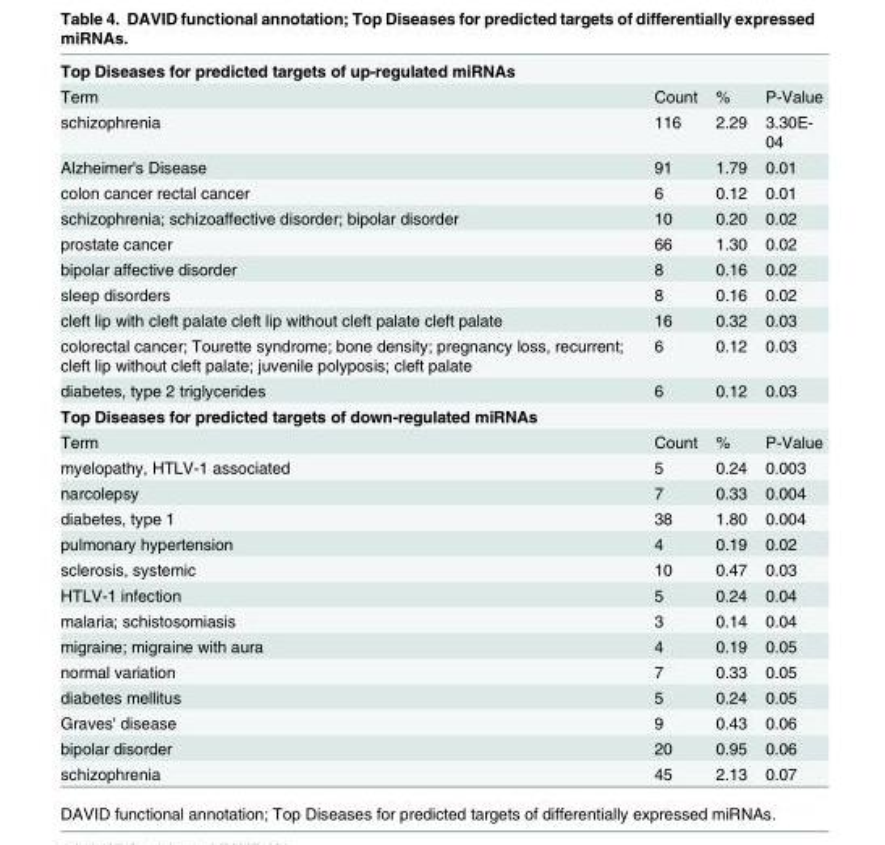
<table><tbody><tr><td colspan="4">Top Diseases for predicted targets of up-regulated miRNAs</td></tr><tr><td>Term</td><td>Count</td><td>%</td><td>P-Value</td></tr><tr><td>schizophrenia</td><td>116</td><td>2.29</td><td>3.30E- 04</td></tr><tr><td>Alzheimer&#x27;s Disease</td><td>91</td><td>1.79</td><td>0.01</td></tr><tr><td>colon cancer rectal cancer</td><td>6</td><td>0.12</td><td>0.01</td></tr><tr><td>schizophrenia; schizoaffective disorder; bipolar disorder</td><td>10</td><td>0.20</td><td>0.02</td></tr><tr><td>prostate cancer</td><td>66</td><td>1.30</td><td>0.02</td></tr><tr><td>bipolar affective disorder</td><td>8</td><td>0.16</td><td>0.02</td></tr><tr><td>sleep disorders</td><td>8</td><td>0.16</td><td>0.02</td></tr><tr><td>cleft lip with cleft palate cleft lip without cleft palate cleft palate</td><td>16</td><td>0.32</td><td>0.03</td></tr><tr><td>colorectal cancer; Tourette syndrome; bone density; pregnancy loss, recurrent; cleft lip without cleft palate; juvenile polyposis; cleft palate</td><td>6</td><td>0.12</td><td>0.03</td></tr><tr><td>diabetes, type 2 triglycerides</td><td>6</td><td>0.12</td><td>0.03</td></tr><tr><td colspan="4">Top Diseases for predicted targets of down-regulated miRNAs</td></tr><tr><td>Term</td><td>Count</td><td>%</td><td>P-Value</td></tr><tr><td>myelopathy, HTLV-1 associated</td><td>5</td><td>0.24</td><td>0.003</td></tr><tr><td>narcolepsy</td><td>7</td><td>0.33</td><td>0.004</td></tr><tr><td>diabetes, type 1</td><td>38</td><td>1.80</td><td>0.004</td></tr><tr><td>pulmonary hypertension</td><td>4</td><td>0.19</td><td>0.02</td></tr><tr><td>sclerosis, systemic</td><td>10</td><td>0.47</td><td>0.03</td></tr><tr><td>HTLV-1 infection</td><td>5</td><td>0.24</td><td>0.04</td></tr><tr><td>malaria; schistosomiasis</td><td>3</td><td>0.14</td><td>0.04</td></tr><tr><td>migraine; migraine with aura</td><td>4</td><td>0.19</td><td>0.05</td></tr><tr><td>normal variation</td><td>7</td><td>0.33</td><td>0.05</td></tr><tr><td>diabetes mellitus</td><td>5</td><td>0.24</td><td>0.05</td></tr><tr><td>Graves&#x27; disease</td><td>9</td><td>0.43</td><td>0.06</td></tr><tr><td>bipolar disorder</td><td>20</td><td>0.95</td><td>0.06</td></tr><tr><td>schizophrenia</td><td>45</td><td>2.13</td><td>0.07</td></tr></tbody></table>